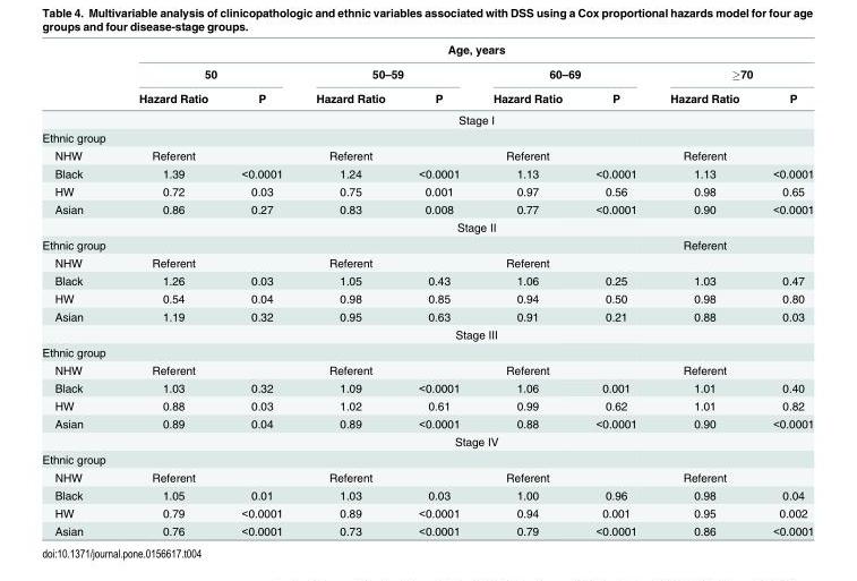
<table><thead><tr><td rowspan="3"></td><td colspan="8">Age, years</td></tr><tr><td colspan="2">50</td><td colspan="2">50–59</td><td colspan="2">60–69</td><td colspan="2">≥70</td></tr><tr><td>Hazard Ratio</td><td>P</td><td>Hazard Ratio</td><td>P</td><td>Hazard Ratio</td><td>P</td><td>Hazard Ratio</td><td>P</td></tr></thead><tbody><tr><td></td><td colspan="8">Stage I</td></tr><tr><td colspan="9">Ethnic group</td></tr><tr><td>NHW</td><td>Referent</td><td></td><td>Referent</td><td></td><td>Referent</td><td></td><td>Referent</td><td></td></tr><tr><td>Black</td><td>1.39</td><td>&lt;0.0001</td><td>1.24</td><td>&lt;0.0001</td><td>1.13</td><td>&lt;0.0001</td><td>1.13</td><td>&lt;0.0001</td></tr><tr><td>HW</td><td>0.72</td><td>0.03</td><td>0.75</td><td>0.001</td><td>0.97</td><td>0.56</td><td>0.98</td><td>0.65</td></tr><tr><td rowspan="2">Asian</td><td>0.86</td><td>0.27</td><td>0.83</td><td>0.008</td><td>0.77</td><td>&lt;0.0001</td><td>0.90</td><td>&lt;0.0001</td></tr><tr><td colspan="8">Stage II</td></tr><tr><td>Ethnic group</td><td></td><td></td><td></td><td></td><td></td><td></td><td>Referent</td><td></td></tr><tr><td>NHW</td><td>Referent</td><td></td><td>Referent</td><td></td><td>Referent</td><td></td><td></td><td></td></tr><tr><td>Black</td><td>1.26</td><td>0.03</td><td>1.05</td><td>0.43</td><td>1.06</td><td>0.25</td><td>1.03</td><td>0.47</td></tr><tr><td>HW</td><td>0.54</td><td>0.04</td><td>0.98</td><td>0.85</td><td>0.94</td><td>0.50</td><td>0.98</td><td>0.80</td></tr><tr><td rowspan="2">Asian</td><td>1.19</td><td>0.32</td><td>0.95</td><td>0.63</td><td>0.91</td><td>0.21</td><td>0.88</td><td>0.03</td></tr><tr><td colspan="8">Stage III</td></tr><tr><td colspan="9">Ethnic group</td></tr><tr><td>NHW</td><td>Referent</td><td></td><td>Referent</td><td></td><td>Referent</td><td></td><td>Referent</td><td></td></tr><tr><td>Black</td><td>1.03</td><td>0.32</td><td>1.09</td><td>&lt;0.0001</td><td>1.06</td><td>0.001</td><td>1.01</td><td>0.40</td></tr><tr><td>HW</td><td>0.88</td><td>0.03</td><td>1.02</td><td>0.61</td><td>0.99</td><td>0.62</td><td>1.01</td><td>0.82</td></tr><tr><td rowspan="2">Asian</td><td>0.89</td><td>0.04</td><td>0.89</td><td>&lt;0.0001</td><td>0.88</td><td>&lt;0.0001</td><td>0.90</td><td>&lt;0.0001</td></tr><tr><td colspan="8">Stage IV</td></tr><tr><td colspan="9">Ethnic group</td></tr><tr><td>NHW</td><td>Referent</td><td></td><td>Referent</td><td></td><td>Referent</td><td></td><td>Referent</td><td></td></tr><tr><td>Black</td><td>1.05</td><td>0.01</td><td>1.03</td><td>0.03</td><td>1.00</td><td>0.96</td><td>0.98</td><td>0.04</td></tr><tr><td>HW</td><td>0.79</td><td>&lt;0.0001</td><td>0.89</td><td>&lt;0.0001</td><td>0.94</td><td>0.001</td><td>0.95</td><td>0.002</td></tr><tr><td>Asian</td><td>0.76</td><td>&lt;0.0001</td><td>0.73</td><td>&lt;0.0001</td><td>0.79</td><td>&lt;0.0001</td><td>0.86</td><td>&lt;0.0001</td></tr></tbody></table>